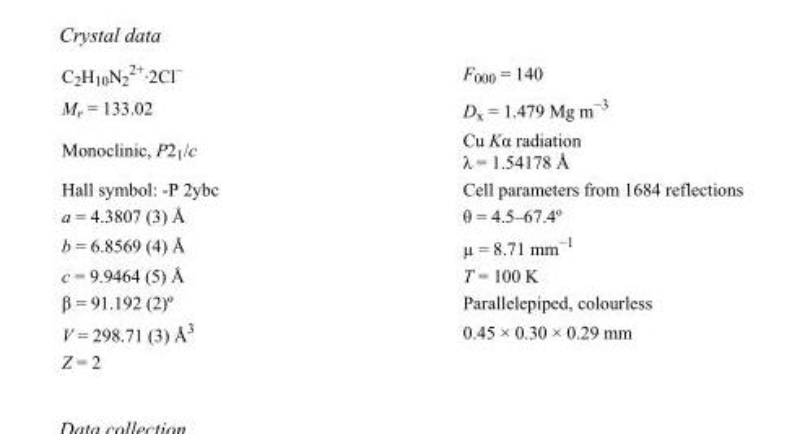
<table><tbody><tr><td>C<sub>2</sub>H<sub>10</sub>N<sub>2</sub> <sup>2+</sup>·2Cl<sup>–</sup></td><td>F000 = 140</td></tr><tr><td>M<sub>r</sub> = 133.02</td><td>D<sub>x</sub> = 1.479 Mg m<sup>−3</sup></td></tr><tr><td>Monoclinic, P2<sub>1</sub>/c</td><td>Cu Kα radiation λ = 1.54178 Å</td></tr><tr><td>Hall symbol: -P 2ybc</td><td>Cell parameters from 1684 reflections</td></tr><tr><td>a = 4.3807 (3) Å</td><td>θ = 4.5–67.4º</td></tr><tr><td>b = 6.8569 (4) Å</td><td>µ = 8.71 mm<sup>−1</sup></td></tr><tr><td>c = 9.9464 (5) Å</td><td>T = 100 K</td></tr><tr><td>β = 91.192 (2)º</td><td>Parallelepiped, colourless</td></tr><tr><td>V = 298.71 (3) Å<sup>3</sup></td><td>0.45 × 0.30 × 0.29 mm</td></tr><tr><td>Z = 2</td><td></td></tr></tbody></table>